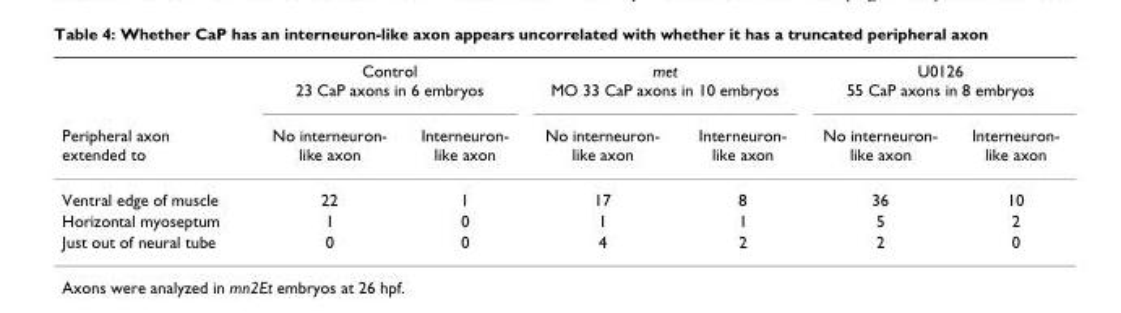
<table><thead><tr><td rowspan="2">Peripheral axon extended to</td><td colspan="2">Control 23 CaP axons in 6 embryos</td><td colspan="2">met MO 33 CaP axons in 10 embryos</td><td colspan="2">U0126 55 CaP axons in 8 embryos</td></tr><tr><td>No interneuron- like axon</td><td>Interneuron- like axon</td><td>No interneuron- like axon</td><td>Interneuron- like axon</td><td>No interneuron- like axon</td><td>Interneuron- like axon</td></tr></thead><tbody><tr><td>Ventral edge of muscle</td><td>22</td><td>1</td><td>17</td><td>8</td><td>36</td><td>10</td></tr><tr><td>Horizontal myoseptum</td><td>1</td><td>0</td><td>1</td><td>1</td><td>5</td><td>2</td></tr><tr><td>Just out of neural tube</td><td>0</td><td>0</td><td>4</td><td>2</td><td>2</td><td>0</td></tr></tbody></table>